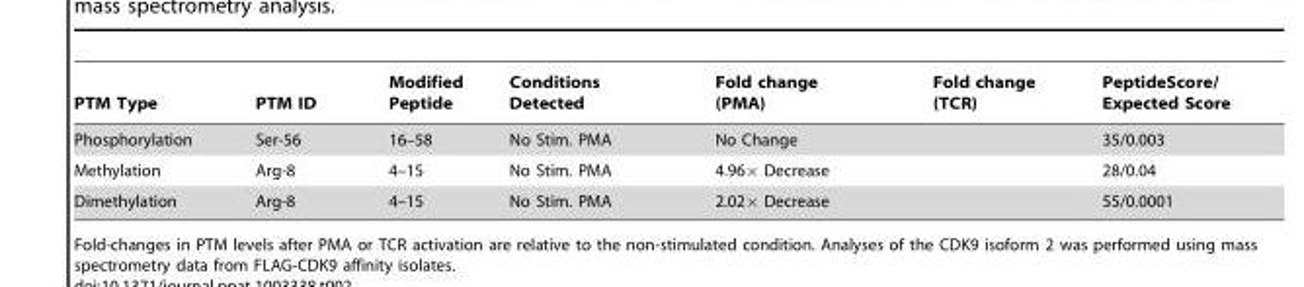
<table><thead><tr><td>PTM Type</td><td>PTM ID</td><td>Modified Peptide</td><td>Conditions Detected</td><td>Fold change (PMA)</td><td>Fold change (TCR)</td><td>PeptideScore/ Expected Score</td></tr></thead><tbody><tr><td>Phosphorylation</td><td>Ser-56</td><td>16–58</td><td>No Stim. PMA</td><td>No Change</td><td></td><td>35/0.003</td></tr><tr><td>Methylation</td><td>Arg-8</td><td>4–15</td><td>No Stim. PMA</td><td>4.96× Decrease</td><td></td><td>28/0.04</td></tr><tr><td>Dimethylation</td><td>Arg-8</td><td>4–15</td><td>No Stim. PMA</td><td>2.02× Decrease</td><td></td><td>55/0.0001</td></tr></tbody></table>